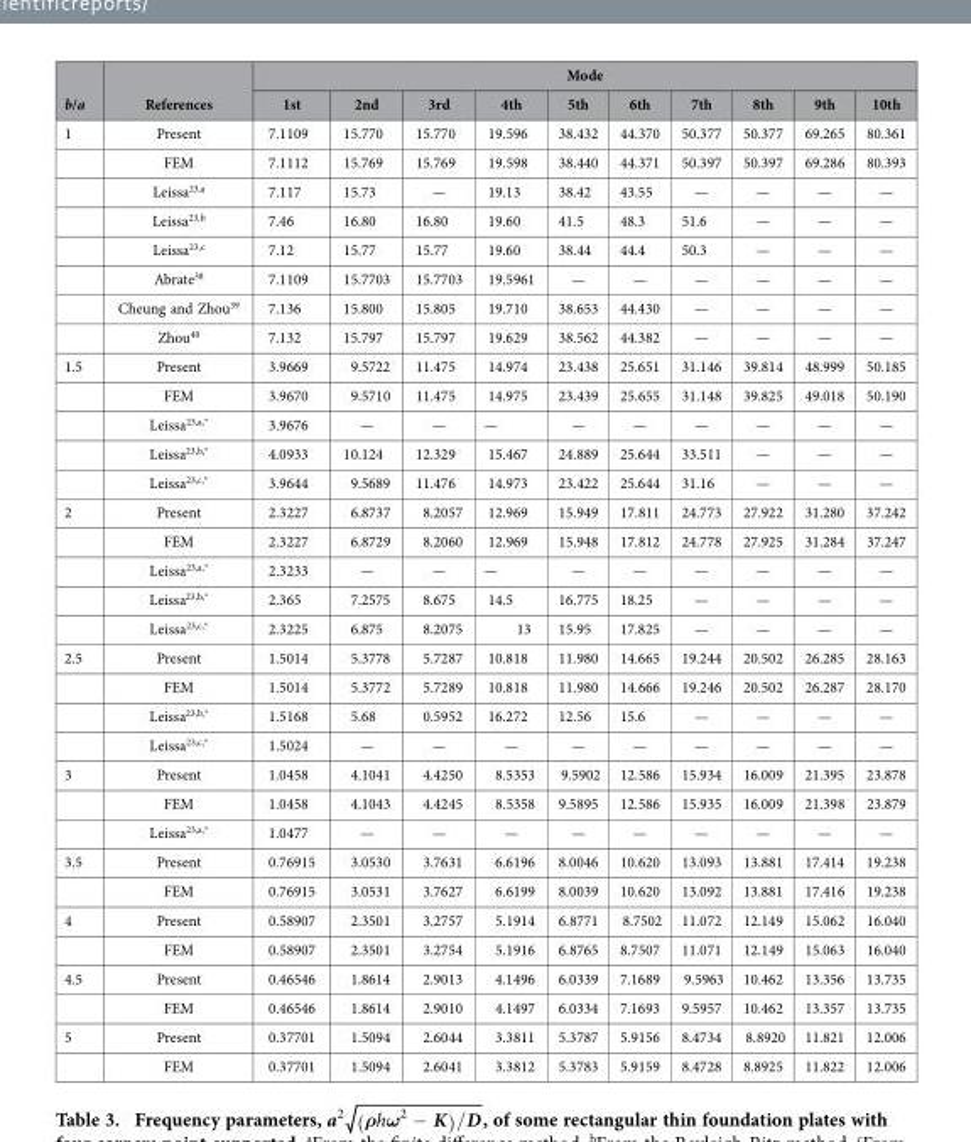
<table><thead><tr><td rowspan="2">b/a</td><td rowspan="2">References</td><td colspan="10">Mode</td></tr><tr><td>1st</td><td>2nd</td><td>3rd</td><td>4th</td><td>5th</td><td>6th</td><td>7th</td><td>8th</td><td>9th</td><td>10th</td></tr></thead><tbody><tr><td rowspan="8">1</td><td>Present</td><td>7.1109</td><td>15.770</td><td>15.770</td><td>19.596</td><td>38.432</td><td>44.370</td><td>50.377</td><td>50.377</td><td>69.265</td><td>80.361</td></tr><tr><td>FEM</td><td>7.1112</td><td>15.769</td><td>15.769</td><td>19.598</td><td>38.440</td><td>44.371</td><td>50.397</td><td>50.397</td><td>69.286</td><td>80.393</td></tr><tr><td>Leissa<sup>23</sup>,<sup>a</sup></td><td>7.117</td><td>15.73</td><td>—</td><td>19.13</td><td>38.42</td><td>43.55</td><td>—</td><td>—</td><td>—</td><td>—</td></tr><tr><td>Leissa<sup>23</sup>,<sup>b</sup></td><td>7.46</td><td>16.80</td><td>16.80</td><td>19.60</td><td>41.5</td><td>48.3</td><td>51.6</td><td>—</td><td>—</td><td>—</td></tr><tr><td>Leissa<sup>23</sup>,<sup>c</sup></td><td>7.12</td><td>15.77</td><td>15.77</td><td>19.60</td><td>38.44</td><td>44.4</td><td>50.3</td><td>—</td><td>—</td><td>—</td></tr><tr><td>Abrate<sup>38</sup></td><td>7.1109</td><td>15.7703</td><td>15.7703</td><td>19.5961</td><td>—</td><td>—</td><td>—</td><td>—</td><td>—</td><td>—</td></tr><tr><td>Cheung and Zhou<sup>39</sup></td><td>7.136</td><td>15.800</td><td>15.805</td><td>19.710</td><td>38.653</td><td>44.430</td><td>—</td><td>—</td><td>—</td><td>—</td></tr><tr><td>Zhou<sup>40</sup></td><td>7.132</td><td>15.797</td><td>15.797</td><td>19.629</td><td>38.562</td><td>44.382</td><td>—</td><td>—</td><td>—</td><td>—</td></tr><tr><td rowspan="5">1.5</td><td>Present</td><td>3.9669</td><td>9.5722</td><td>11.475</td><td>14.974</td><td>23.438</td><td>25.651</td><td>31.146</td><td>39.814</td><td>48.999</td><td>50.185</td></tr><tr><td>FEM</td><td>3.9670</td><td>9.5710</td><td>11.475</td><td>14.975</td><td>23.439</td><td>25.655</td><td>31.148</td><td>39.825</td><td>49.018</td><td>50.190</td></tr><tr><td>Leissa<sup>23</sup>,<sup>a</sup>,*</td><td>3.9676</td><td>—</td><td>—</td><td>—</td><td>—</td><td>—</td><td>—</td><td>—</td><td>—</td><td>—</td></tr><tr><td>Leissa<sup>23</sup>,<sup>b</sup>,*</td><td>4.0933</td><td>10.124</td><td>12.329</td><td>15.467</td><td>24.889</td><td>25.644</td><td>33.511</td><td>—</td><td>—</td><td>—</td></tr><tr><td>Leissa<sup>23</sup>,<sup>c</sup>,*</td><td>3.9644</td><td>9.5689</td><td>11.476</td><td>14.973</td><td>23.422</td><td>25.644</td><td>31.16</td><td>—</td><td>—</td><td>—</td></tr><tr><td rowspan="5">2</td><td>Present</td><td>2.3227</td><td>6.8737</td><td>8.2057</td><td>12.969</td><td>15.949</td><td>17.811</td><td>24.773</td><td>27.922</td><td>31.280</td><td>37.242</td></tr><tr><td>FEM</td><td>2.3227</td><td>6.8729</td><td>8.2060</td><td>12.969</td><td>15.948</td><td>17.812</td><td>24.778</td><td>27.925</td><td>31.284</td><td>37.247</td></tr><tr><td>Leissa<sup>23</sup>,<sup>a</sup>,*</td><td>2.3233</td><td>—</td><td>—</td><td>—</td><td>—</td><td>—</td><td>—</td><td>—</td><td>—</td><td>—</td></tr><tr><td>Leissa<sup>23</sup>,<sup>b</sup>,*</td><td>2.365</td><td>7.2575</td><td>8.675</td><td>14.5</td><td>16.775</td><td>18.25</td><td>—</td><td>—</td><td>—</td><td>—</td></tr><tr><td>Leissa<sup>23</sup>,<sup>c</sup>,*</td><td>2.3225</td><td>6.875</td><td>8.2075</td><td>13</td><td>15.95</td><td>17.825</td><td>—</td><td>—</td><td>—</td><td>—</td></tr><tr><td rowspan="4">2.5</td><td>Present</td><td>1.5014</td><td>5.3778</td><td>5.7287</td><td>10.818</td><td>11.980</td><td>14.665</td><td>19.244</td><td>20.502</td><td>26.285</td><td>28.163</td></tr><tr><td>FEM</td><td>1.5014</td><td>5.3772</td><td>5.7289</td><td>10.818</td><td>11.980</td><td>14.666</td><td>19.246</td><td>20.502</td><td>26.287</td><td>28.170</td></tr><tr><td>Leissa<sup>23</sup>,<sup>b</sup>,*</td><td>1.5168</td><td>5.68</td><td>0.5952</td><td>16.272</td><td>12.56</td><td>15.6</td><td>—</td><td>—</td><td>—</td><td>—</td></tr><tr><td>Leissa<sup>23</sup>,<sup>c</sup>,*</td><td>1.5024</td><td>—</td><td>—</td><td>—</td><td>—</td><td>—</td><td>—</td><td>—</td><td>—</td><td>—</td></tr><tr><td rowspan="3">3</td><td>Present</td><td>1.0458</td><td>4.1041</td><td>4.4250</td><td>8.5353</td><td>9.5902</td><td>12.586</td><td>15.934</td><td>16.009</td><td>21.395</td><td>23.878</td></tr><tr><td>FEM</td><td>1.0458</td><td>4.1043</td><td>4.4245</td><td>8.5358</td><td>9.5895</td><td>12.586</td><td>15.935</td><td>16.009</td><td>21.398</td><td>23.879</td></tr><tr><td>Leissa<sup>23</sup>,<sup>a</sup>,*</td><td>1.0477</td><td>—</td><td>—</td><td>—</td><td>—</td><td>—</td><td>—</td><td>—</td><td>—</td><td>—</td></tr><tr><td rowspan="2">3.5</td><td>Present</td><td>0.76915</td><td>3.0530</td><td>3.7631</td><td>6.6196</td><td>8.0046</td><td>10.620</td><td>13.093</td><td>13.881</td><td>17.414</td><td>19.238</td></tr><tr><td>FEM</td><td>0.76915</td><td>3.0531</td><td>3.7627</td><td>6.6199</td><td>8.0039</td><td>10.620</td><td>13.092</td><td>13.881</td><td>17.416</td><td>19.238</td></tr><tr><td rowspan="2">4</td><td>Present</td><td>0.58907</td><td>2.3501</td><td>3.2757</td><td>5.1914</td><td>6.8771</td><td>8.7502</td><td>11.072</td><td>12.149</td><td>15.062</td><td>16.040</td></tr><tr><td>FEM</td><td>0.58907</td><td>2.3501</td><td>3.2754</td><td>5.1916</td><td>6.8765</td><td>8.7507</td><td>11.071</td><td>12.149</td><td>15.063</td><td>16.040</td></tr><tr><td rowspan="2">4.5</td><td>Present</td><td>0.46546</td><td>1.8614</td><td>2.9013</td><td>4.1496</td><td>6.0339</td><td>7.1689</td><td>9.5963</td><td>10.462</td><td>13.356</td><td>13.735</td></tr><tr><td>FEM</td><td>0.46546</td><td>1.8614</td><td>2.9010</td><td>4.1497</td><td>6.0334</td><td>7.1693</td><td>9.5957</td><td>10.462</td><td>13.357</td><td>13.735</td></tr><tr><td rowspan="2">5</td><td>Present</td><td>0.37701</td><td>1.5094</td><td>2.6044</td><td>3.3811</td><td>5.3787</td><td>5.9156</td><td>8.4734</td><td>8.8920</td><td>11.821</td><td>12.006</td></tr><tr><td>FEM</td><td>0.37701</td><td>1.5094</td><td>2.6041</td><td>3.3812</td><td>5.3783</td><td>5.9159</td><td>8.4728</td><td>8.8925</td><td>11.822</td><td>12.006</td></tr></tbody></table>